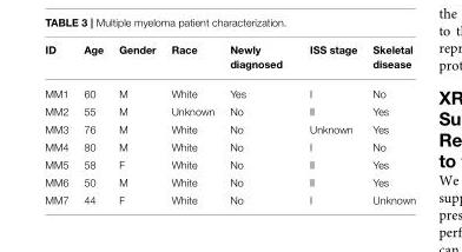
<table><thead><tr><td>ID</td><td>Age</td><td>Gender</td><td>Race</td><td>Newly diagnosed</td><td>ISS stage</td><td>Skeletal disease</td></tr></thead><tbody><tr><td>MM1</td><td>60</td><td>M</td><td>White</td><td>Yes</td><td>I</td><td>No</td></tr><tr><td>MM2</td><td>55</td><td>M</td><td>Unknown</td><td>No</td><td>II</td><td>Yes</td></tr><tr><td>MM3</td><td>76</td><td>M</td><td>White</td><td>No</td><td>Unknown</td><td>Yes</td></tr><tr><td>MM4</td><td>80</td><td>M</td><td>White</td><td>No</td><td>I</td><td>No</td></tr><tr><td>MM5</td><td>58</td><td>F</td><td>White</td><td>No</td><td>II</td><td>Yes</td></tr><tr><td>MM6</td><td>50</td><td>M</td><td>White</td><td>No</td><td>II</td><td>Yes</td></tr><tr><td>MM7</td><td>44</td><td>F</td><td>White</td><td>No</td><td>I</td><td>Unknown</td></tr></tbody></table>